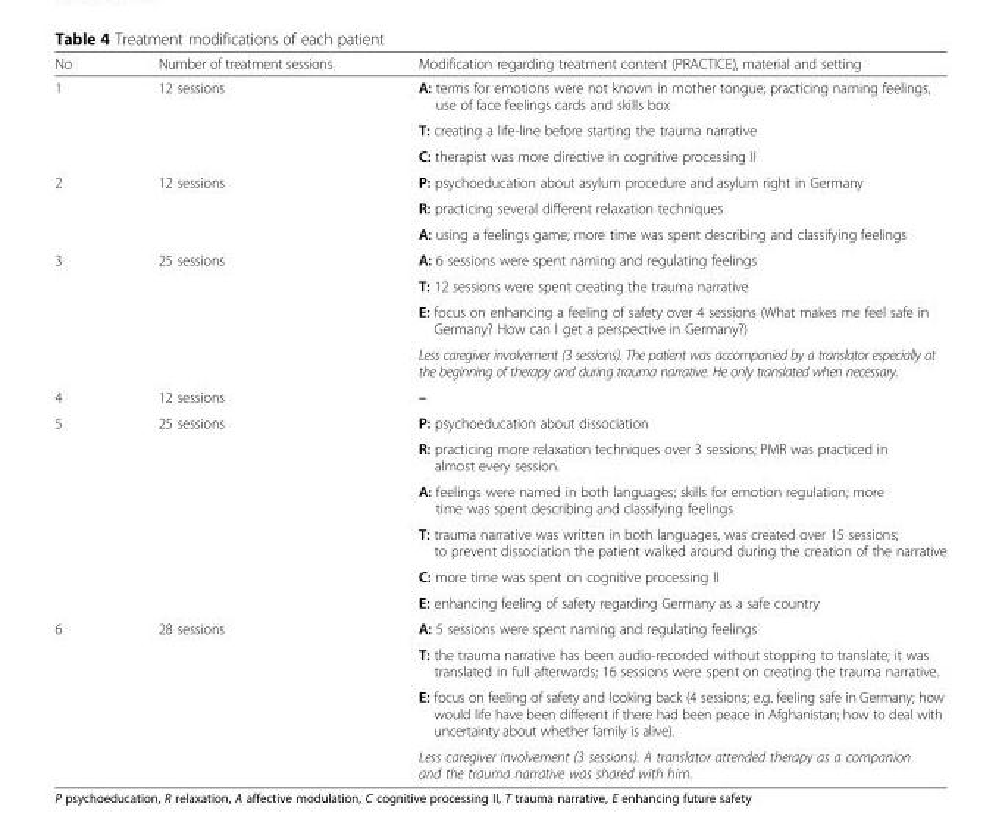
<table><thead><tr><td>No</td><td>Number of treatment sessions</td><td>Modification regarding treatment content (PRACTICE), material and setting</td></tr></thead><tbody><tr><td rowspan="3">1</td><td rowspan="3">12 sessions</td><td>A: terms for emotions were not known in mother tongue; practicing naming feelings, use of face feelings cards and skills box</td></tr><tr><td>T: creating a life-line before starting the trauma narrative</td></tr><tr><td>C: therapist was more directive in cognitive processing II</td></tr><tr><td rowspan="3">2</td><td rowspan="3">12 sessions</td><td>P: psychoeducation about asylum procedure and asylum right in Germany</td></tr><tr><td>R: practicing several different relaxation techniques</td></tr><tr><td>A: using a feelings game; more time was spent describing and classifying feelings</td></tr><tr><td rowspan="4">3</td><td rowspan="4">25 sessions</td><td>A: 6 sessions were spent naming and regulating feelings</td></tr><tr><td>T: 12 sessions were spent creating the trauma narrative</td></tr><tr><td>E: focus on enhancing a feeling of safety over 4 sessions (What makes me feel safe in Germany? How can I get a perspective in Germany?)</td></tr><tr><td>Less caregiver involvement (3 sessions). The patient was accompanied by a translator especially at the beginning of therapy and during trauma narrative. He only translated when necessary.</td></tr><tr><td>4</td><td>12 sessions</td><td>–</td></tr><tr><td rowspan="6">5</td><td rowspan="6">25 sessions</td><td>P: psychoeducation about dissociation</td></tr><tr><td>R: practicing more relaxation techniques over 3 sessions; PMR was practiced in almost every session.</td></tr><tr><td>A: feelings were named in both languages; skills for emotion regulation; more time was spent describing and classifying feelings</td></tr><tr><td>T: trauma narrative was written in both languages, was created over 15 sessions; to prevent dissociation the patient walked around during the creation of the narrative</td></tr><tr><td>C: more time was spent on cognitive processing II</td></tr><tr><td>E: enhancing feeling of safety regarding Germany as a safe country</td></tr><tr><td rowspan="4">6</td><td rowspan="4">28 sessions</td><td>A: 5 sessions were spent naming and regulating feelings</td></tr><tr><td>T: the trauma narrative has been audio-recorded without stopping to translate; it was translated in full afterwards; 16 sessions were spent on creating the trauma narrative.</td></tr><tr><td>E: focus on feeling of safety and looking back (4 sessions; e.g. feeling safe in Germany; how would life have been different if there had been peace in Afghanistan; how to deal with uncertainty about whether family is alive).</td></tr><tr><td>Less caregiver involvement (3 sessions). A translator attended therapy as a companion and the trauma narrative was shared with him.</td></tr></tbody></table>